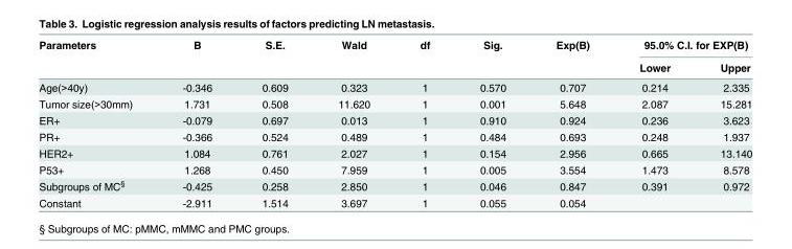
<table><thead><tr><td rowspan="2">Parameters</td><td rowspan="2">B</td><td rowspan="2">S.E.</td><td rowspan="2">Wald</td><td rowspan="2">df</td><td rowspan="2">Sig.</td><td rowspan="2">Exp(B)</td><td colspan="2">95.0% C.I. for EXP(B)</td></tr><tr><td>Lower</td><td>Upper</td></tr></thead><tbody><tr><td>Age(&gt;40y)</td><td>-0.346</td><td>0.609</td><td>0.323</td><td>1</td><td>0.570</td><td>0.707</td><td>0.214</td><td>2.335</td></tr><tr><td>Tumor size(&gt;30mm)</td><td>1.731</td><td>0.508</td><td>11.620</td><td>1</td><td>0.001</td><td>5.648</td><td>2.087</td><td>15.281</td></tr><tr><td>ER+</td><td>-0.079</td><td>0.697</td><td>0.013</td><td>1</td><td>0.910</td><td>0.924</td><td>0.236</td><td>3.623</td></tr><tr><td>PR+</td><td>-0.366</td><td>0.524</td><td>0.489</td><td>1</td><td>0.484</td><td>0.693</td><td>0.248</td><td>1.937</td></tr><tr><td>HER2+</td><td>1.084</td><td>0.761</td><td>2.027</td><td>1</td><td>0.154</td><td>2.956</td><td>0.665</td><td>13.140</td></tr><tr><td>P53+</td><td>1.268</td><td>0.450</td><td>7.959</td><td>1</td><td>0.005</td><td>3.554</td><td>1.473</td><td>8.578</td></tr><tr><td>Subgroups of MC<sup>§</sup></td><td>-0.425</td><td>0.258</td><td>2.850</td><td>1</td><td>0.046</td><td>0.847</td><td>0.391</td><td>0.972</td></tr><tr><td>Constant</td><td>-2.911</td><td>1.514</td><td>3.697</td><td>1</td><td>0.055</td><td>0.054</td><td></td><td></td></tr></tbody></table>